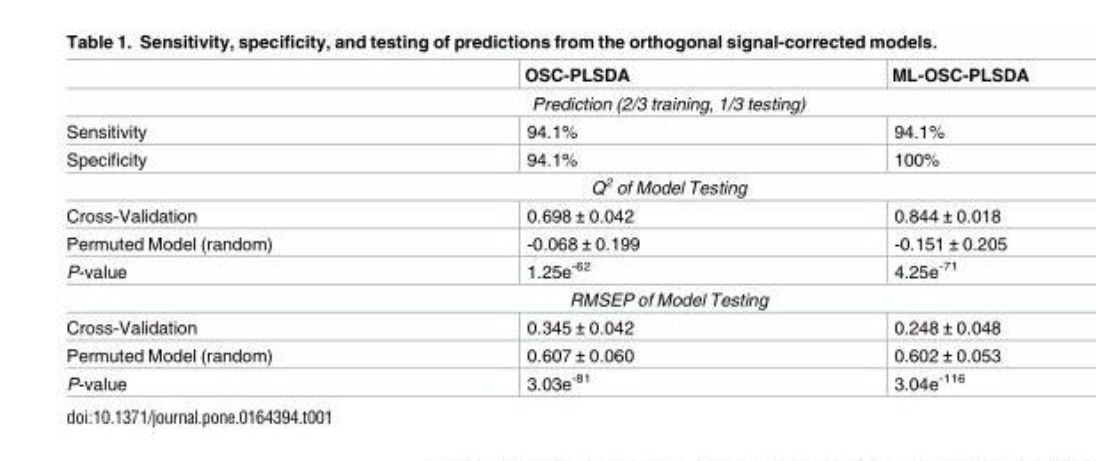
<table><thead><tr><td></td><td>OSC-PLSDA</td><td>ML-OSC-PLSDA</td></tr></thead><tbody><tr><td colspan="3">Prediction (2/3 training, 1/3 testing)</td></tr><tr><td>Sensitivity</td><td>94.1%</td><td>94.1%</td></tr><tr><td>Specificity</td><td>94.1%</td><td>100%</td></tr><tr><td colspan="3">Q<sup>2</sup> of Model Testing</td></tr><tr><td>Cross-Validation</td><td>0.698 ± 0.042</td><td>0.844 ± 0.018</td></tr><tr><td>Permuted Model (random)</td><td>-0.068 ± 0.199</td><td>-0.151 ± 0.205</td></tr><tr><td>P-value</td><td>1.25e<sup>-62</sup></td><td>4.25e<sup>-71</sup></td></tr><tr><td colspan="3">RMSEP of Model Testing</td></tr><tr><td>Cross-Validation</td><td>0.345 ± 0.042</td><td>0.248 ± 0.048</td></tr><tr><td>Permuted Model (random)</td><td>0.607 ± 0.060</td><td>0.602 ± 0.053</td></tr><tr><td>P-value</td><td>3.03e<sup>-81</sup></td><td>3.04e<sup>-116</sup></td></tr></tbody></table>